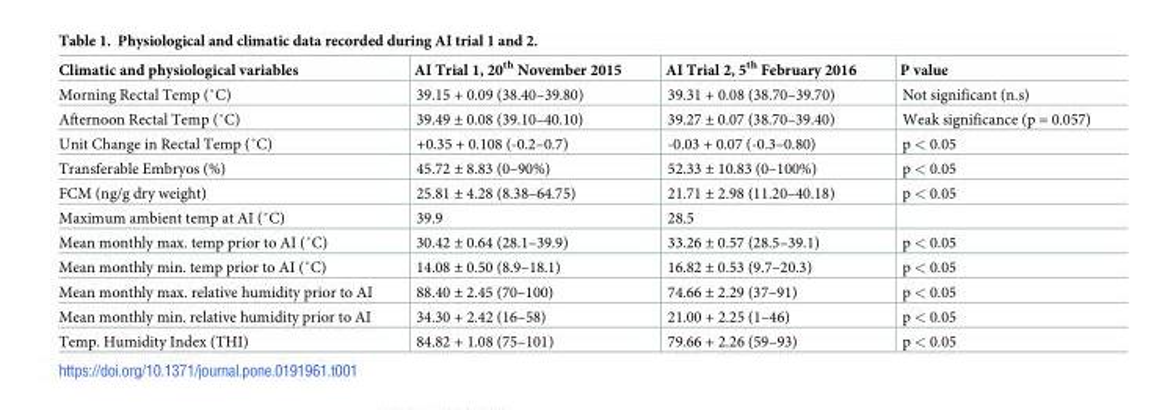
<table><thead><tr><td>Climatic and physiological variables</td><td>AI Trial 1, 20<sup>th</sup> November 2015</td><td>AI Trial 2, 5<sup>th</sup> February 2016</td><td>P value</td></tr></thead><tbody><tr><td>Morning Rectal Temp (˚C)</td><td>39.15 + 0.09 (38.40–39.80)</td><td>39.31 + 0.08 (38.70–39.70)</td><td>Not significant (n.s)</td></tr><tr><td>Afternoon Rectal Temp (˚C)</td><td>39.49 ± 0.08 (39.10–40.10)</td><td>39.27 ± 0.07 (38.70–39.40)</td><td>Weak significance (p = 0.057)</td></tr><tr><td>Unit Change in Rectal Temp (˚C)</td><td>+0.35 + 0.108 (-0.2–0.7)</td><td>-0.03 + 0.07 (-0.3–0.80)</td><td>p &lt; 0.05</td></tr><tr><td>Transferable Embryos (%)</td><td>45.72 ± 8.83 (0–90%)</td><td>52.33 ± 10.83 (0–100%)</td><td>p &lt; 0.05</td></tr><tr><td>FCM (ng/g dry weight)</td><td>25.81 ± 4.28 (8.38–64.75)</td><td>21.71 ± 2.98 (11.20–40.18)</td><td>p &lt; 0.05</td></tr><tr><td>Maximum ambient temp at AI (˚C)</td><td>39.9</td><td>28.5</td><td></td></tr><tr><td>Mean monthly max. temp prior to AI (˚C)</td><td>30.42 ± 0.64 (28.1–39.9)</td><td>33.26 ± 0.57 (28.5–39.1)</td><td>p &lt; 0.05</td></tr><tr><td>Mean monthly min. temp prior to AI (˚C)</td><td>14.08 ± 0.50 (8.9–18.1)</td><td>16.82 ± 0.53 (9.7–20.3)</td><td>p &lt; 0.05</td></tr><tr><td>Mean monthly max. relative humidity prior to AI</td><td>88.40 ± 2.45 (70–100)</td><td>74.66 ± 2.29 (37–91)</td><td>p &lt; 0.05</td></tr><tr><td>Mean monthly min. relative humidity prior to AI</td><td>34.30 + 2.42 (16–58)</td><td>21.00 + 2.25 (1–46)</td><td>p &lt; 0.05</td></tr><tr><td>Temp. Humidity Index (THI)</td><td>84.82 + 1.08 (75–101)</td><td>79.66 + 2.26 (59–93)</td><td>p &lt; 0.05</td></tr></tbody></table>